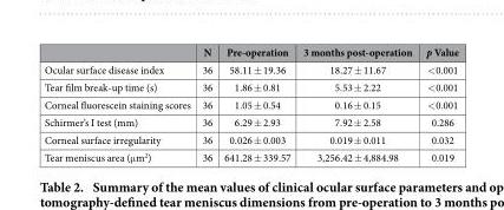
<table><thead><tr><td></td><td>N</td><td>Pre-operation</td><td>3 months post-operation</td><td>p Value</td></tr></thead><tbody><tr><td>Ocular surface disease index</td><td>36</td><td>58.11 ± 19.36</td><td>18.27 ± 11.67</td><td>&lt; 0.001</td></tr><tr><td>Tear film break-up time (s)</td><td>36</td><td>1.86 ± 0.81</td><td>5.53 ± 2.22</td><td>&lt; 0.001</td></tr><tr><td>Corneal fluorescein staining scores</td><td>36</td><td>1.05 ± 0.54</td><td>0.16 ± 0.15</td><td>&lt; 0.001</td></tr><tr><td>Schirmer’s I test (mm)</td><td>36</td><td>6.29 ± 2.93</td><td>7.92 ± 2.58</td><td>0.286</td></tr><tr><td>Corneal surface irregularity</td><td>36</td><td>0.026 ± 0.003</td><td>0.019 ± 0.011</td><td>0.032</td></tr><tr><td>Tear meniscus area (μ m<sup>2</sup>)</td><td>36</td><td>641.28 ± 339.57</td><td>3,256.42 ± 4,884.98</td><td>0.019</td></tr></tbody></table>